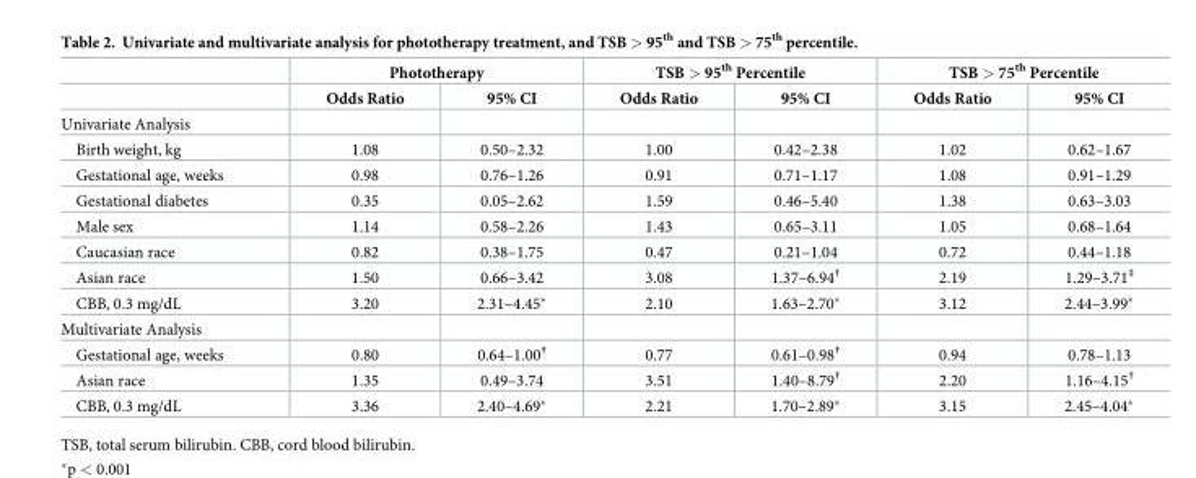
<table><thead><tr><td rowspan="2"></td><td colspan="2">Phototherapy</td><td colspan="2">TSB &gt; 95<sup>th</sup> Percentile</td><td colspan="2">TSB &gt; 75<sup>th</sup> Percentile</td></tr><tr><td>Odds Ratio</td><td>95% CI</td><td>Odds Ratio</td><td>95% CI</td><td>Odds Ratio</td><td>95% CI</td></tr></thead><tbody><tr><td colspan="7">Univariate Analysis</td></tr><tr><td>Birth weight, kg</td><td>1.08</td><td>0.50–2.32</td><td>1.00</td><td>0.42–2.38</td><td>1.02</td><td>0.62–1.67</td></tr><tr><td>Gestational age, weeks</td><td>0.98</td><td>0.76–1.26</td><td>0.91</td><td>0.71–1.17</td><td>1.08</td><td>0.91–1.29</td></tr><tr><td>Gestational diabetes</td><td>0.35</td><td>0.05–2.62</td><td>1.59</td><td>0.46–5.40</td><td>1.38</td><td>0.63–3.03</td></tr><tr><td>Male sex</td><td>1.14</td><td>0.58–2.26</td><td>1.43</td><td>0.65–3.11</td><td>1.05</td><td>0.68–1.64</td></tr><tr><td>Caucasian race</td><td>0.82</td><td>0.38–1.75</td><td>0.47</td><td>0.21–1.04</td><td>0.72</td><td>0.44–1.18</td></tr><tr><td>Asian race</td><td>1.50</td><td>0.66–3.42</td><td>3.08</td><td>1.37–6.94<sup>†</sup></td><td>2.19</td><td>1.29–3.71<sup>‡</sup></td></tr><tr><td>CBB, 0.3 mg/dL</td><td>3.20</td><td>2.31–4.45*</td><td>2.10</td><td>1.63–2.70*</td><td>3.12</td><td>2.44–3.99*</td></tr><tr><td colspan="7">Multivariate Analysis</td></tr><tr><td>Gestational age, weeks</td><td>0.80</td><td>0.64–1.00<sup>†</sup></td><td>0.77</td><td>0.61–0.98<sup>†</sup></td><td>0.94</td><td>0.78–1.13</td></tr><tr><td>Asian race</td><td>1.35</td><td>0.49–3.74</td><td>3.51</td><td>1.40–8.79<sup>†</sup></td><td>2.20</td><td>1.16–4.15<sup>†</sup></td></tr><tr><td>CBB, 0.3 mg/dL</td><td>3.36</td><td>2.40–4.69*</td><td>2.21</td><td>1.70–2.89*</td><td>3.15</td><td>2.45–4.04*</td></tr></tbody></table>